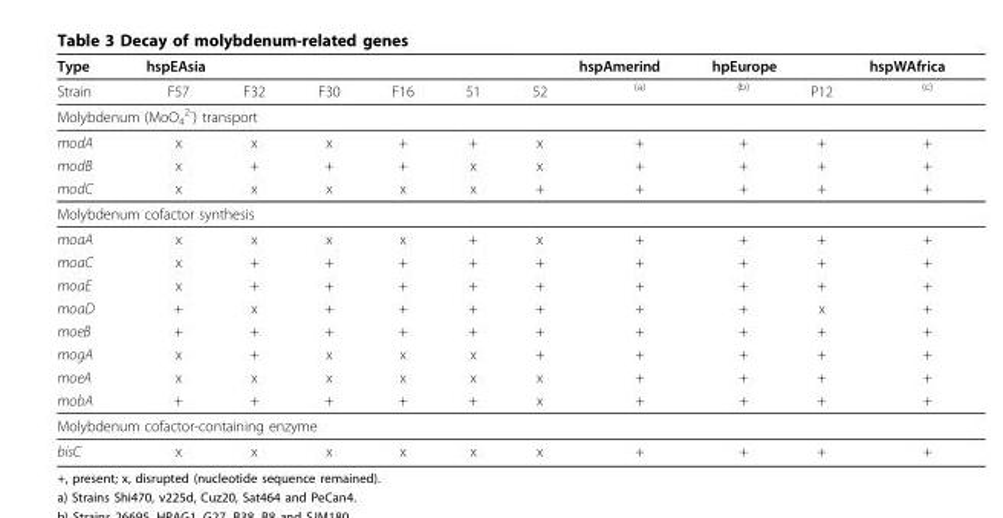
<table><thead><tr><td rowspan="2">Type Strain</td><td colspan="2">hspEAsia</td><td rowspan="2">F30</td><td rowspan="2">F16</td><td rowspan="2">51</td><td rowspan="2">52</td><td rowspan="2">hspAmerind (a)</td><td colspan="2">hpEurope</td><td rowspan="2">hspWAfrica (c)</td></tr><tr><td>F57</td><td>F32</td><td>(b)</td><td>P12</td></tr></thead><tbody><tr><td colspan="11">Molybdenum (MoO<sub>4</sub> <sup>2-</sup>) transport</td></tr><tr><td>modA</td><td>x</td><td>x</td><td>x</td><td>+</td><td>+</td><td>x</td><td>+</td><td>+</td><td>+</td><td>+</td></tr><tr><td>modB</td><td>x</td><td>+</td><td>+</td><td>+</td><td>x</td><td>x</td><td>+</td><td>+</td><td>+</td><td>+</td></tr><tr><td>modC</td><td>x</td><td>x</td><td>x</td><td>x</td><td>x</td><td>+</td><td>+</td><td>+</td><td>+</td><td>+</td></tr><tr><td colspan="11">Molybdenum cofactor synthesis</td></tr><tr><td>moaA</td><td>x</td><td>x</td><td>x</td><td>x</td><td>+</td><td>x</td><td>+</td><td>+</td><td>+</td><td>+</td></tr><tr><td>moaC</td><td>x</td><td>+</td><td>+</td><td>+</td><td>+</td><td>+</td><td>+</td><td>+</td><td>+</td><td>+</td></tr><tr><td>moaE</td><td>x</td><td>+</td><td>+</td><td>+</td><td>+</td><td>+</td><td>+</td><td>+</td><td>+</td><td>+</td></tr><tr><td>moaD</td><td>+</td><td>x</td><td>+</td><td>+</td><td>+</td><td>+</td><td>+</td><td>+</td><td>x</td><td>+</td></tr><tr><td>moeB</td><td>+</td><td>+</td><td>+</td><td>+</td><td>+</td><td>+</td><td>+</td><td>+</td><td>+</td><td>+</td></tr><tr><td>mogA</td><td>x</td><td>+</td><td>x</td><td>x</td><td>x</td><td>+</td><td>+</td><td>+</td><td>+</td><td>+</td></tr><tr><td>moeA</td><td>x</td><td>x</td><td>x</td><td>x</td><td>x</td><td>x</td><td>+</td><td>+</td><td>+</td><td>+</td></tr><tr><td>mobA</td><td>+</td><td>+</td><td>+</td><td>+</td><td>+</td><td>x</td><td>+</td><td>+</td><td>+</td><td>+</td></tr><tr><td colspan="11">Molybdenum cofactor-containing enzyme</td></tr><tr><td>bisC</td><td>x</td><td>x</td><td>x</td><td>x</td><td>x</td><td>x</td><td>+</td><td>+</td><td>+</td><td>+</td></tr></tbody></table>